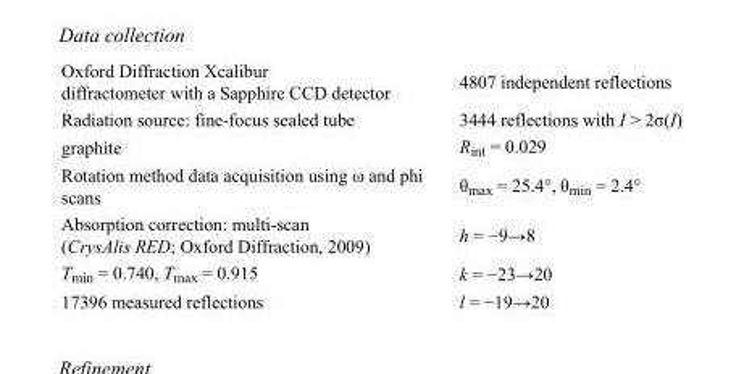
<table><tbody><tr><td>Oxford Diffraction Xcalibur diffractometer with a Sapphire CCD detector</td><td>4807 independent reflections</td></tr><tr><td>Radiation source: fine-focus sealed tube</td><td>3444 reflections with I &gt; 2σ(I)</td></tr><tr><td>graphite</td><td>R<sub>int</sub> = 0.029</td></tr><tr><td>Rotation method data acquisition using ω and phi scans</td><td>θ<sub>max</sub> = 25.4°, θ<sub>min</sub> = 2.4°</td></tr><tr><td>Absorption correction: multi-scan (CrysAlis RED; Oxford Diffraction, 2009)</td><td>h = −9→8</td></tr><tr><td>T<sub>min</sub> = 0.740, T<sub>max</sub> = 0.915</td><td>k = −23→20</td></tr><tr><td>17396 measured reflections</td><td>l = −19→20</td></tr></tbody></table>